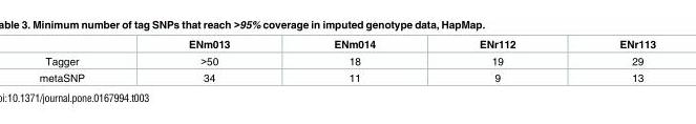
<table><thead><tr><td></td><td>ENm013</td><td>ENm014</td><td>ENr112</td><td>ENr113</td></tr></thead><tbody><tr><td>Tagger</td><td>&gt;50</td><td>18</td><td>19</td><td>29</td></tr><tr><td>metaSNP</td><td>34</td><td>11</td><td>9</td><td>13</td></tr></tbody></table>